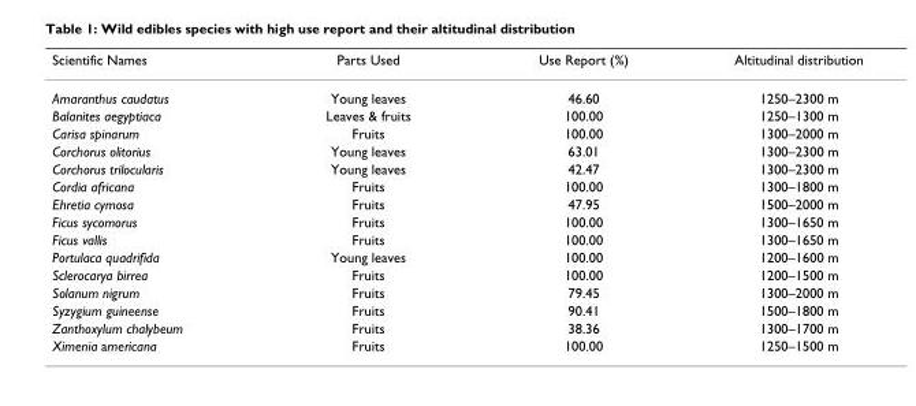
<table><thead><tr><td>Scientific Names</td><td>Parts Used</td><td>Use Report (%)</td><td>Altitudinal distribution</td></tr></thead><tbody><tr><td>Amaranthus caudatus</td><td>Young leaves</td><td>46.60</td><td>1250–2300 m</td></tr><tr><td>Balanites aegyptiaca</td><td>Leaves &amp; fruits</td><td>100.00</td><td>1250–1300 m</td></tr><tr><td>Carisa spinarum</td><td>Fruits</td><td>100.00</td><td>1300–2000 m</td></tr><tr><td>Corchorus olitorius</td><td>Young leaves</td><td>63.01</td><td>1300–2300 m</td></tr><tr><td>Corchorus trilocularis</td><td>Young leaves</td><td>42.47</td><td>1300–2300 m</td></tr><tr><td>Cordia africana</td><td>Fruits</td><td>100.00</td><td>1300–1800 m</td></tr><tr><td>Ehretia cymosa</td><td>Fruits</td><td>47.95</td><td>1500–2000 m</td></tr><tr><td>Ficus sycomorus</td><td>Fruits</td><td>100.00</td><td>1300–1650 m</td></tr><tr><td>Ficus vallis</td><td>Fruits</td><td>100.00</td><td>1300–1650 m</td></tr><tr><td>Portulaca quadrifida</td><td>Young leaves</td><td>100.00</td><td>1200–1600 m</td></tr><tr><td>Sclerocarya birrea</td><td>Fruits</td><td>100.00</td><td>1200–1500 m</td></tr><tr><td>Solanum nigrum</td><td>Fruits</td><td>79.45</td><td>1300–2000 m</td></tr><tr><td>Syzygium guineense</td><td>Fruits</td><td>90.41</td><td>1500–1800 m</td></tr><tr><td>Zanthoxylum chalybeum</td><td>Fruits</td><td>38.36</td><td>1300–1700 m</td></tr><tr><td>Ximenia americana</td><td>Fruits</td><td>100.00</td><td>1250–1500 m</td></tr></tbody></table>